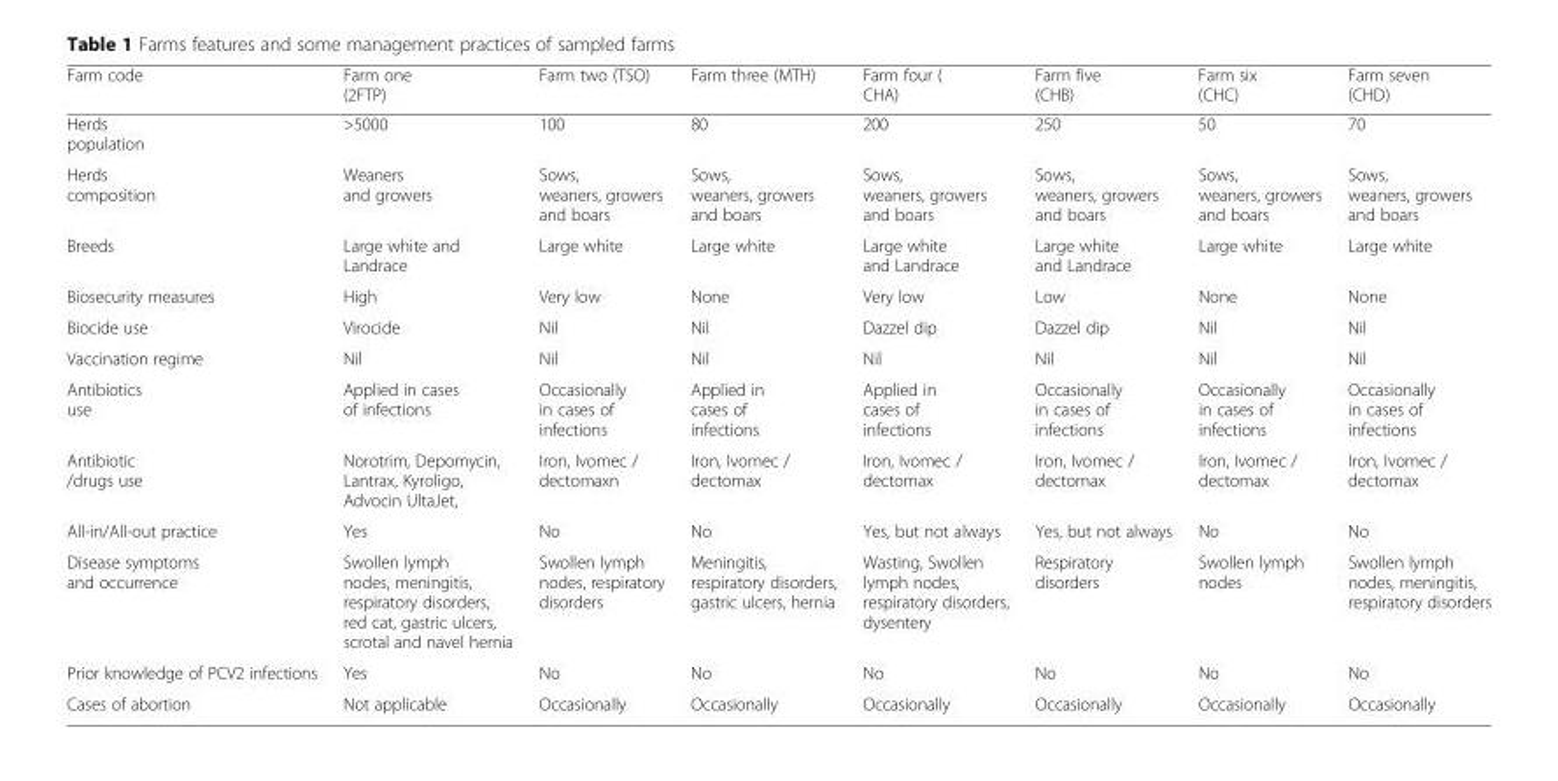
<table><thead><tr><td>Farm code</td><td>Farm one (2FTP)</td><td>Farm two (TSO)</td><td>Farm three (MTH)</td><td>Farm four ( CHA)</td><td>Farm five (CHB)</td><td>Farm six (CHC)</td><td>Farm seven (CHD)</td></tr></thead><tbody><tr><td>Herds population</td><td>&gt;5000</td><td>100</td><td>80</td><td>200</td><td>250</td><td>50</td><td>70</td></tr><tr><td>Herds composition</td><td>Weaners and growers</td><td>Sows, weaners, growers and boars</td><td>Sows, weaners, growers and boars</td><td>Sows, weaners, growers and boars</td><td>Sows, weaners, growers and boars</td><td>Sows, weaners, growers and boars</td><td>Sows, weaners, growers and boars</td></tr><tr><td>Breeds</td><td>Large white and Landrace</td><td>Large white</td><td>Large white</td><td>Large white and Landrace</td><td>Large white and Landrace</td><td>Large white</td><td>Large white</td></tr><tr><td>Biosecurity measures</td><td>High</td><td>Very low</td><td>None</td><td>Very low</td><td>Low</td><td>None</td><td>None</td></tr><tr><td>Biocide use</td><td>Virocide</td><td>Nil</td><td>Nil</td><td>Dazzel dip</td><td>Dazzel dip</td><td>Nil</td><td>Nil</td></tr><tr><td>Vaccination regime</td><td>Nil</td><td>Nil</td><td>Nil</td><td>Nil</td><td>Nil</td><td>Nil</td><td>Nil</td></tr><tr><td>Antibiotics use</td><td>Applied in cases of infections</td><td>Occasionally in cases of infections</td><td>Applied in cases of infections</td><td>Applied in cases of infections</td><td>Occasionally in cases of infections</td><td>Occasionally in cases of infections</td><td>Occasionally in cases of infections</td></tr><tr><td>Antibiotic /drugs use</td><td>Norotrim, Depomycin, Lantrax, Kyroligo, Advocin UltaJet,</td><td>Iron, Ivomec / dectomaxn</td><td>Iron, Ivomec / dectomax</td><td>Iron, Ivomec / dectomax</td><td>Iron, Ivomec / dectomax</td><td>Iron, Ivomec / dectomax</td><td>Iron, Ivomec / dectomax</td></tr><tr><td>All-in/All-out practice</td><td>Yes</td><td>No</td><td>No</td><td>Yes, but not always</td><td>Yes, but not always</td><td>No</td><td>No</td></tr><tr><td>Disease symptoms and occurrence</td><td>Swollen lymph nodes, meningitis, respiratory disorders, red cat, gastric ulcers, scrotal and navel hernia</td><td>Swollen lymph nodes, respiratory disorders</td><td>Meningitis, respiratory disorders, gastric ulcers, hernia</td><td>Wasting, Swollen lymph nodes, respiratory disorders, dysentery</td><td>Respiratory disorders</td><td>Swollen lymph nodes</td><td>Swollen lymph nodes, meningitis, respiratory disorders</td></tr><tr><td>Prior knowledge of PCV2 infections</td><td>Yes</td><td>No</td><td>No</td><td>No</td><td>No</td><td>No</td><td>No</td></tr><tr><td>Cases of abortion</td><td>Not applicable</td><td>Occasionally</td><td>Occasionally</td><td>Occasionally</td><td>Occasionally</td><td>Occasionally</td><td>Occasionally</td></tr></tbody></table>